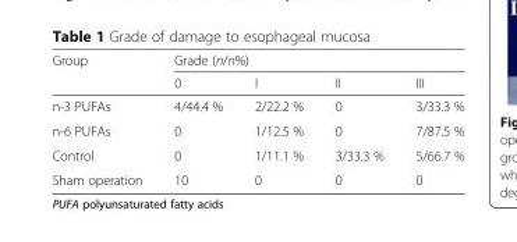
<table><thead><tr><td rowspan="2">Group</td><td colspan="4">Grade (n/n%)</td></tr><tr><td>0</td><td>I</td><td>II</td><td>III</td></tr></thead><tbody><tr><td>n-3 PUFAs</td><td>4/44.4 %</td><td>2/22.2 %</td><td>0</td><td>3/33.3 %</td></tr><tr><td>n-6 PUFAs</td><td>0</td><td>1/12.5 %</td><td>0</td><td>7/87.5 %</td></tr><tr><td>Control</td><td>0</td><td>1/11.1 %</td><td>3/33.3 %</td><td>5/66.7 %</td></tr><tr><td>Sham operation</td><td>10</td><td>0</td><td>0</td><td>0</td></tr></tbody></table>